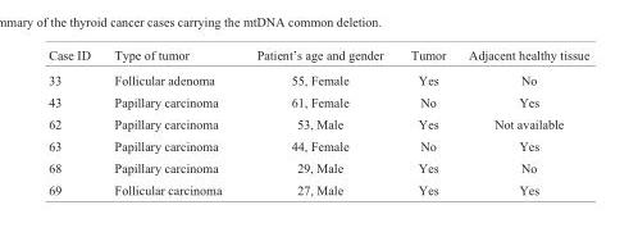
<table><thead><tr><td>Case ID</td><td>Type of tumor</td><td>Patient’s age and gender</td><td>Tumor</td><td>Adjacent healthy tissue</td></tr></thead><tbody><tr><td>33</td><td>Follicular adenoma</td><td>55, Female</td><td>Yes</td><td>No</td></tr><tr><td>43</td><td>Papillary carcinoma</td><td>61, Female</td><td>No</td><td>Yes</td></tr><tr><td>62</td><td>Papillary carcinoma</td><td>53, Male</td><td>Yes</td><td>Not available</td></tr><tr><td>63</td><td>Papillary carcinoma</td><td>44, Female</td><td>No</td><td>Yes</td></tr><tr><td>68</td><td>Papillary carcinoma</td><td>29, Male</td><td>Yes</td><td>No</td></tr><tr><td>69</td><td>Follicular carcinoma</td><td>27, Male</td><td>Yes</td><td>Yes</td></tr></tbody></table>